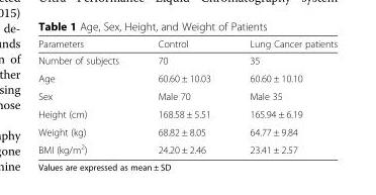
<table><thead><tr><td>Parameters</td><td>Control</td><td>Lung Cancer patients</td></tr></thead><tbody><tr><td>Number of subjects</td><td>70</td><td>35</td></tr><tr><td>Age</td><td>60.60 ± 10.03</td><td>60.60 ± 10.10</td></tr><tr><td>Sex</td><td>Male 70</td><td>Male 35</td></tr><tr><td>Height (cm)</td><td>168.58 ± 5.51</td><td>165.94 ± 6.19</td></tr><tr><td>Weight (kg)</td><td>68.82 ± 8.05</td><td>64.77 ± 9.84</td></tr><tr><td>BMI (kg/m<sup>2</sup>)</td><td>24.20 ± 2.46</td><td>23.41 ± 2.57</td></tr></tbody></table>